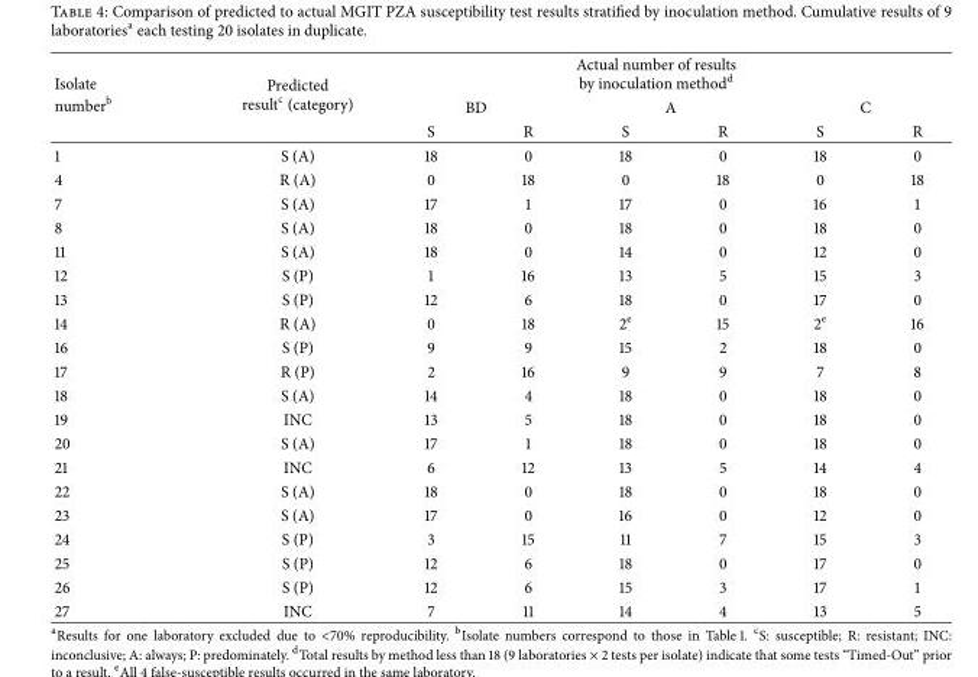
<table><thead><tr><td rowspan="3">Isolate number<sup>b</sup></td><td rowspan="3">Predicted result<sup>c</sup> (category)</td><td colspan="6">Actual number of results by inoculation method<sup>d</sup></td></tr><tr><td colspan="2">BD</td><td colspan="2">A</td><td colspan="2">C</td></tr><tr><td>S</td><td>R</td><td>S</td><td>R</td><td>S</td><td>R</td></tr></thead><tbody><tr><td>1</td><td>S (A)</td><td>18</td><td>0</td><td>18</td><td>0</td><td>18</td><td>0</td></tr><tr><td>4</td><td>R (A)</td><td>0</td><td>18</td><td>0</td><td>18</td><td>0</td><td>18</td></tr><tr><td>7</td><td>S (A)</td><td>17</td><td>1</td><td>17</td><td>0</td><td>16</td><td>1</td></tr><tr><td>8</td><td>S (A)</td><td>18</td><td>0</td><td>18</td><td>0</td><td>18</td><td>0</td></tr><tr><td>11</td><td>S (A)</td><td>18</td><td>0</td><td>14</td><td>0</td><td>12</td><td>0</td></tr><tr><td>12</td><td>S (P)</td><td>1</td><td>16</td><td>13</td><td>5</td><td>15</td><td>3</td></tr><tr><td>13</td><td>S (P)</td><td>12</td><td>6</td><td>18</td><td>0</td><td>17</td><td>0</td></tr><tr><td>14</td><td>R (A)</td><td>0</td><td>18</td><td>2<sup>e</sup></td><td>15</td><td>2<sup>e</sup></td><td>16</td></tr><tr><td>16</td><td>S (P)</td><td>9</td><td>9</td><td>15</td><td>2</td><td>18</td><td>0</td></tr><tr><td>17</td><td>R (P)</td><td>2</td><td>16</td><td>9</td><td>9</td><td>7</td><td>8</td></tr><tr><td>18</td><td>S (A)</td><td>14</td><td>4</td><td>18</td><td>0</td><td>18</td><td>0</td></tr><tr><td>19</td><td>INC</td><td>13</td><td>5</td><td>18</td><td>0</td><td>18</td><td>0</td></tr><tr><td>20</td><td>S (A)</td><td>17</td><td>1</td><td>18</td><td>0</td><td>18</td><td>0</td></tr><tr><td>21</td><td>INC</td><td>6</td><td>12</td><td>13</td><td>5</td><td>14</td><td>4</td></tr><tr><td>22</td><td>S (A)</td><td>18</td><td>0</td><td>18</td><td>0</td><td>18</td><td>0</td></tr><tr><td>23</td><td>S (A)</td><td>17</td><td>0</td><td>16</td><td>0</td><td>12</td><td>0</td></tr><tr><td>24</td><td>S (P)</td><td>3</td><td>15</td><td>11</td><td>7</td><td>15</td><td>3</td></tr><tr><td>25</td><td>S (P)</td><td>12</td><td>6</td><td>18</td><td>0</td><td>17</td><td>0</td></tr><tr><td>26</td><td>S (P)</td><td>12</td><td>6</td><td>15</td><td>3</td><td>17</td><td>1</td></tr><tr><td>27</td><td>INC</td><td>7</td><td>11</td><td>14</td><td>4</td><td>13</td><td>5</td></tr></tbody></table>